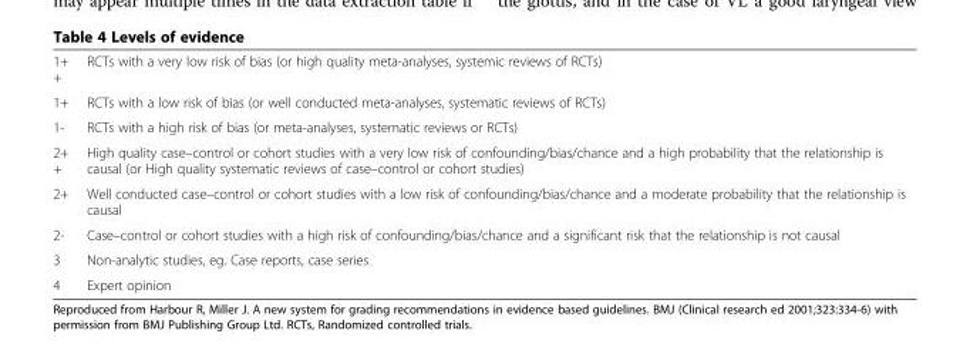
<table><tbody><tr><td>1+ +</td><td>RCTs with a very low risk of bias (or high quality meta-analyses, systemic reviews of RCTs)</td></tr><tr><td>1+</td><td>RCTs with a low risk of bias (or well conducted meta-analyses, systematic reviews of RCTs)</td></tr><tr><td>1-</td><td>RCTs with a high risk of bias (or meta-analyses, systematic reviews or RCTs)</td></tr><tr><td>2+ +</td><td>High quality case–control or cohort studies with a very low risk of confounding/bias/chance and a high probability that the relationship is causal (or High quality systematic reviews of case–control or cohort studies)</td></tr><tr><td>2+</td><td>Well conducted case–control or cohort studies with a low risk of confounding/bias/chance and a moderate probability that the relationship is causal</td></tr><tr><td>2-</td><td>Case–control or cohort studies with a high risk of confounding/bias/chance and a significant risk that the relationship is not causal</td></tr><tr><td>3</td><td>Non-analytic studies, eg. Case reports, case series</td></tr><tr><td>4</td><td>Expert opinion</td></tr></tbody></table>